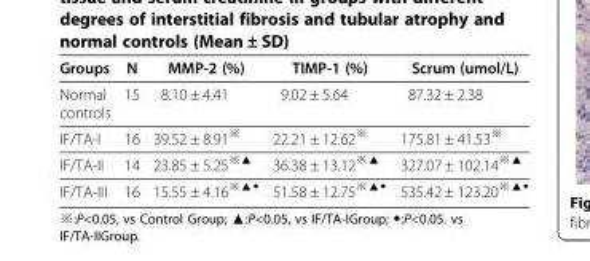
<table><thead><tr><td>Groups</td><td>N</td><td>MMP-2 (%)</td><td>TIMP-1 (%)</td><td>Scrum (umol/L)</td></tr></thead><tbody><tr><td>Normal controls</td><td>15</td><td>8.10 ± 4.41</td><td>9.02 ± 5.64</td><td>87.32 ± 2.38</td></tr><tr><td>IF/TA-I</td><td>16</td><td>39.52 ± 8.91<sup>※</sup></td><td>22.21 ± 12.62<sup>※</sup></td><td>175.81 ± 41.53<sup>※</sup></td></tr><tr><td>IF/TA-II</td><td>14</td><td>23.85 ± 5.25<sup>※▲</sup></td><td>36.38 ± 13.12<sup>※▲</sup></td><td>327.07 ± 102.14<sup>※▲</sup></td></tr><tr><td>IF/TA-III</td><td>16</td><td>15.55 ± 4.16<sup>※▲◆</sup></td><td>51.58 ± 12.75<sup>※▲◆</sup></td><td>535.42 ± 123.20<sup>※▲◆</sup></td></tr></tbody></table>